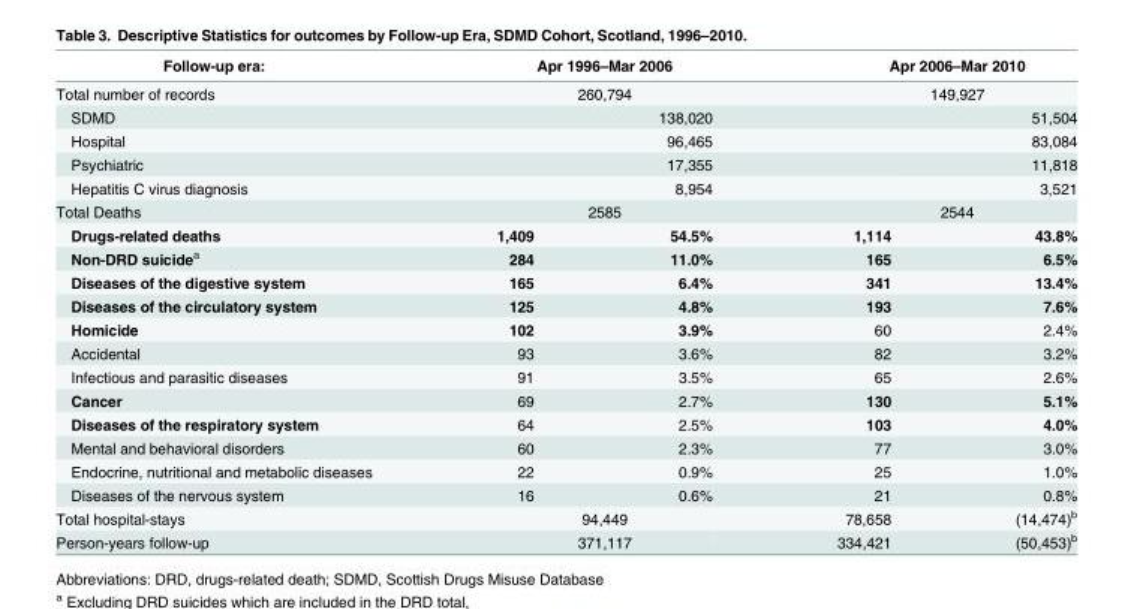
<table><thead><tr><td rowspan="3">Follow-up era: Total number of records SDMD</td><td rowspan="2" colspan="2">Apr 1996–Mar 2006 260,794</td><td rowspan="2" colspan="2">Apr 2006–Mar 2010 149,927</td></tr><tr></tr><tr><td></td><td>138,020</td><td></td><td>51,504</td></tr></thead><tbody><tr><td>Hospital</td><td></td><td>96,465</td><td></td><td>83,084</td></tr><tr><td>Psychiatric</td><td></td><td>17,355</td><td></td><td>11,818</td></tr><tr><td>Hepatitis C virus diagnosis</td><td></td><td>8,954</td><td></td><td>3,521</td></tr><tr><td>Total Deaths</td><td colspan="2">2585</td><td colspan="2">2544</td></tr><tr><td>Drugs-related deaths</td><td>1,409</td><td>54.5%</td><td>1,114</td><td>43.8%</td></tr><tr><td>Non-DRD suicide<sup>a</sup></td><td>284</td><td>11.0%</td><td>165</td><td>6.5%</td></tr><tr><td>Diseases of the digestive system</td><td>165</td><td>6.4%</td><td>341</td><td>13.4%</td></tr><tr><td>Diseases of the circulatory system</td><td>125</td><td>4.8%</td><td>193</td><td>7.6%</td></tr><tr><td>Homicide</td><td>102</td><td>3.9%</td><td>60</td><td>2.4%</td></tr><tr><td>Accidental</td><td>93</td><td>3.6%</td><td>82</td><td>3.2%</td></tr><tr><td>Infectious and parasitic diseases</td><td>91</td><td>3.5%</td><td>65</td><td>2.6%</td></tr><tr><td>Cancer</td><td>69</td><td>2.7%</td><td>130</td><td>5.1%</td></tr><tr><td>Diseases of the respiratory system</td><td>64</td><td>2.5%</td><td>103</td><td>4.0%</td></tr><tr><td>Mental and behavioral disorders</td><td>60</td><td>2.3%</td><td>77</td><td>3.0%</td></tr><tr><td>Endocrine, nutritional and metabolic diseases</td><td>22</td><td>0.9%</td><td>25</td><td>1.0%</td></tr><tr><td>Diseases of the nervous system</td><td>16</td><td>0.6%</td><td>21</td><td>0.8%</td></tr><tr><td>Total hospital-stays</td><td colspan="2">94,449</td><td>78,658</td><td>(14,474)<sup>b</sup></td></tr><tr><td>Person-years follow-up</td><td colspan="2">371,117</td><td>334,421</td><td>(50,453)<sup>b</sup></td></tr></tbody></table>